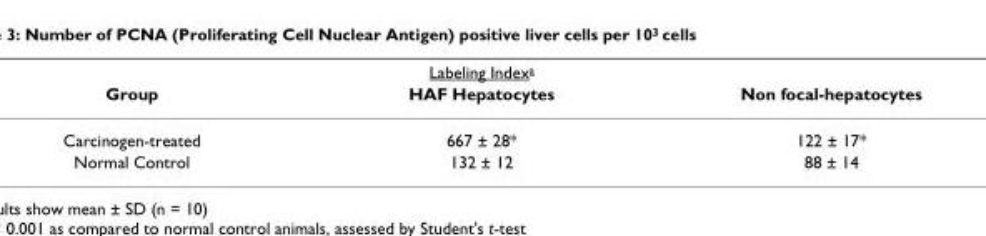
<table><thead><tr><td colspan="3">Labeling Index<sup>a</sup></td></tr><tr><td>Group</td><td>HAF Hepatocytes</td><td>Non focal-hepatocytes</td></tr></thead><tbody><tr><td>Carcinogen-treated</td><td>667 ± 28*</td><td>122 ± 17*</td></tr><tr><td>Normal Control</td><td>132 ± 12</td><td>88 ± 14</td></tr></tbody></table>